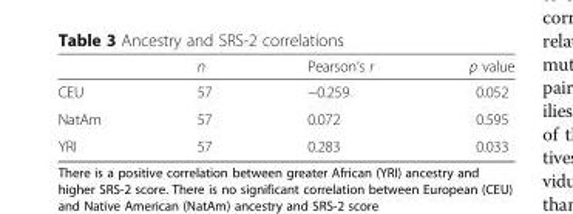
<table><thead><tr><td></td><td>n</td><td>Pearson’s r</td><td>p value</td></tr></thead><tbody><tr><td>CEU</td><td>57</td><td>−0.259</td><td>0.052</td></tr><tr><td>NatAm</td><td>57</td><td>0.072</td><td>0.595</td></tr><tr><td>YRI</td><td>57</td><td>0.283</td><td>0.033</td></tr></tbody></table>